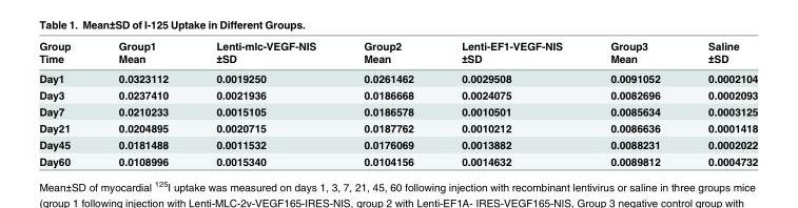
<table><thead><tr><td rowspan="2">Group Time</td><td rowspan="2">Group1 Mean</td><td rowspan="2">Lenti-mlc-VEGF-NIS ±SD</td><td rowspan="2">Group2 Mean</td><td rowspan="2">Lenti-EF1-VEGF-NIS ±SD</td><td rowspan="2">Group3 Mean</td><td rowspan="2">Saline ±SD</td></tr><tr></tr></thead><tbody><tr><td>Day1</td><td>0.0323112</td><td>0.0019250</td><td>0.0261462</td><td>0.0029508</td><td>0.0091052</td><td>0.0002104</td></tr><tr><td>Day3</td><td>0.0237410</td><td>0.0021936</td><td>0.0186668</td><td>0.0024075</td><td>0.0082696</td><td>0.0002093</td></tr><tr><td>Day7</td><td>0.0210233</td><td>0.0015105</td><td>0.0186578</td><td>0.0010501</td><td>0.0085634</td><td>0.0003125</td></tr><tr><td>Day21</td><td>0.0204895</td><td>0.0020715</td><td>0.0187762</td><td>0.0010212</td><td>0.0086636</td><td>0.0001418</td></tr><tr><td>Day45</td><td>0.0181488</td><td>0.0011532</td><td>0.0176069</td><td>0.0013882</td><td>0.0088231</td><td>0.0002022</td></tr><tr><td>Day60</td><td>0.0108996</td><td>0.0015340</td><td>0.0104156</td><td>0.0014632</td><td>0.0089812</td><td>0.0004732</td></tr></tbody></table>